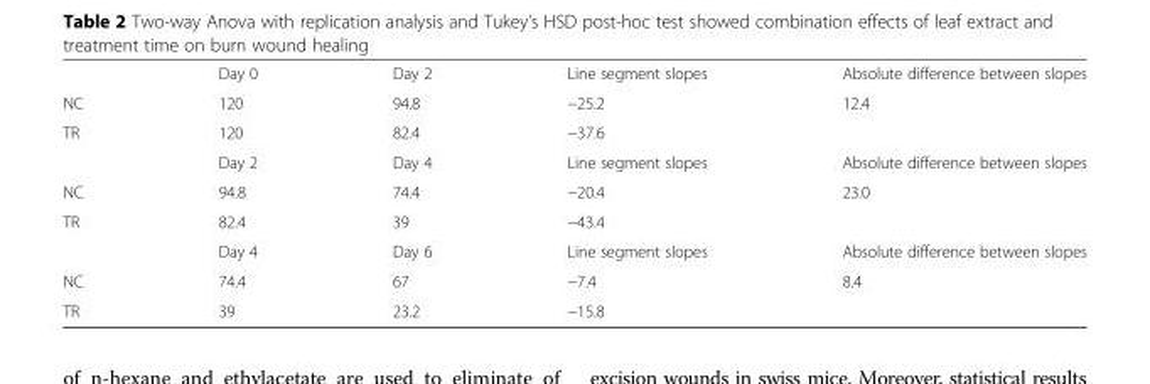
<table><thead><tr><td></td><td>Day 0</td><td>Day 2</td><td>Line segment slopes</td><td>Absolute difference between slopes</td></tr></thead><tbody><tr><td>NC</td><td>120</td><td>94.8</td><td>−25.2</td><td>12.4</td></tr><tr><td rowspan="2">TR</td><td>120</td><td>82.4</td><td>−37.6</td><td></td></tr><tr><td>Day 2</td><td>Day 4</td><td>Line segment slopes</td><td>Absolute difference between slopes</td></tr><tr><td>NC</td><td>94.8</td><td>74.4</td><td>−20.4</td><td>23.0</td></tr><tr><td rowspan="2">TR</td><td>82.4</td><td>39</td><td>−43.4</td><td></td></tr><tr><td>Day 4</td><td>Day 6</td><td>Line segment slopes</td><td>Absolute difference between slopes</td></tr><tr><td>NC</td><td>74.4</td><td>67</td><td>−7.4</td><td>8.4</td></tr><tr><td>TR</td><td>39</td><td>23.2</td><td>−15.8</td><td></td></tr></tbody></table>